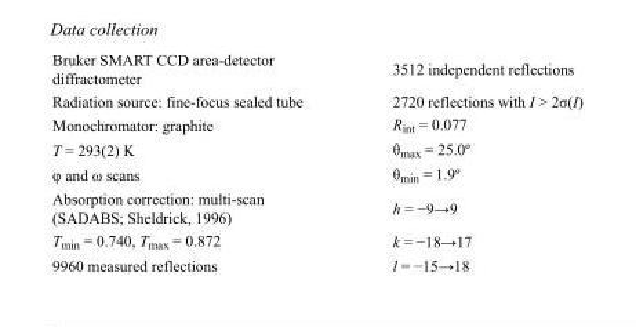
<table><tbody><tr><td>Bruker SMART CCD area-detector diffractometer</td><td>3512 independent reflections</td></tr><tr><td>Radiation source: fine-focus sealed tube</td><td>2720 reflections with I &gt; 2σ(I)</td></tr><tr><td>Monochromator: graphite</td><td>R<sub>int</sub> = 0.077</td></tr><tr><td>T = 293(2) K</td><td>θ<sub>max</sub> = 25.0º</td></tr><tr><td>φ and ω scans</td><td>θ<sub>min</sub> = 1.9º</td></tr><tr><td>Absorption correction: multi-scan (SADABS; Sheldrick, 1996)</td><td>h = −9→9</td></tr><tr><td>T<sub>min</sub> = 0.740, T<sub>max</sub> = 0.872</td><td>k = −18→17</td></tr><tr><td>9960 measured reflections</td><td>l = −15→18</td></tr></tbody></table>